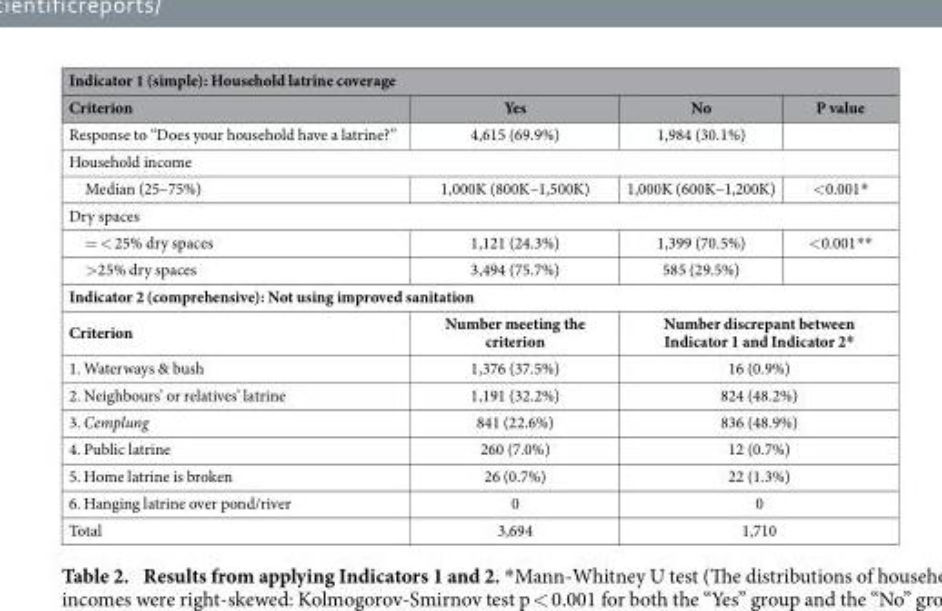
<table><thead><tr><td colspan="4">Indicator 1 (simple): Household latrine coverage</td></tr><tr><td>Criterion</td><td>Yes</td><td>No</td><td>P value</td></tr></thead><tbody><tr><td>Response to “Does your household have a latrine?”</td><td>4,615 (69.9%)</td><td>1,984 (30.1%)</td><td></td></tr><tr><td colspan="4">Household income</td></tr><tr><td>Median (25–75%)</td><td>1,000K (800K–1,500K)</td><td>1,000K (600K–1,200K)</td><td>&lt; 0.001*</td></tr><tr><td colspan="4">Dry spaces</td></tr><tr><td>= &lt; 25% dry spaces</td><td>1,121 (24.3%)</td><td>1,399 (70.5%)</td><td>&lt; 0.001* *</td></tr><tr><td>&gt; 25% dry spaces</td><td>3,494 (75.7%)</td><td>585 (29.5%)</td><td></td></tr><tr><td colspan="4">Indicator 2 (comprehensive): Not using improved sanitation</td></tr><tr><td>Criterion</td><td>Number meeting the criterion</td><td colspan="2">Number discrepant between Indicator 1 and Indicator 2*</td></tr><tr><td>1. Waterways &amp; bush</td><td>1,376 (37.5%)</td><td colspan="2">16 (0.9%)</td></tr><tr><td>2. Neighbours’ or relatives’ latrine</td><td>1,191 (32.2%)</td><td colspan="2">824 (48.2%)</td></tr><tr><td>3. Cemplung</td><td>841 (22.6%)</td><td colspan="2">836 (48.9%)</td></tr><tr><td>4. Public latrine</td><td>260 (7.0%)</td><td colspan="2">12 (0.7%)</td></tr><tr><td>5. Home latrine is broken</td><td>26 (0.7%)</td><td colspan="2">22 (1.3%)</td></tr><tr><td>6. Hanging latrine over pond/river</td><td>0</td><td colspan="2">0</td></tr><tr><td>Total</td><td>3,694</td><td colspan="2">1,710</td></tr></tbody></table>